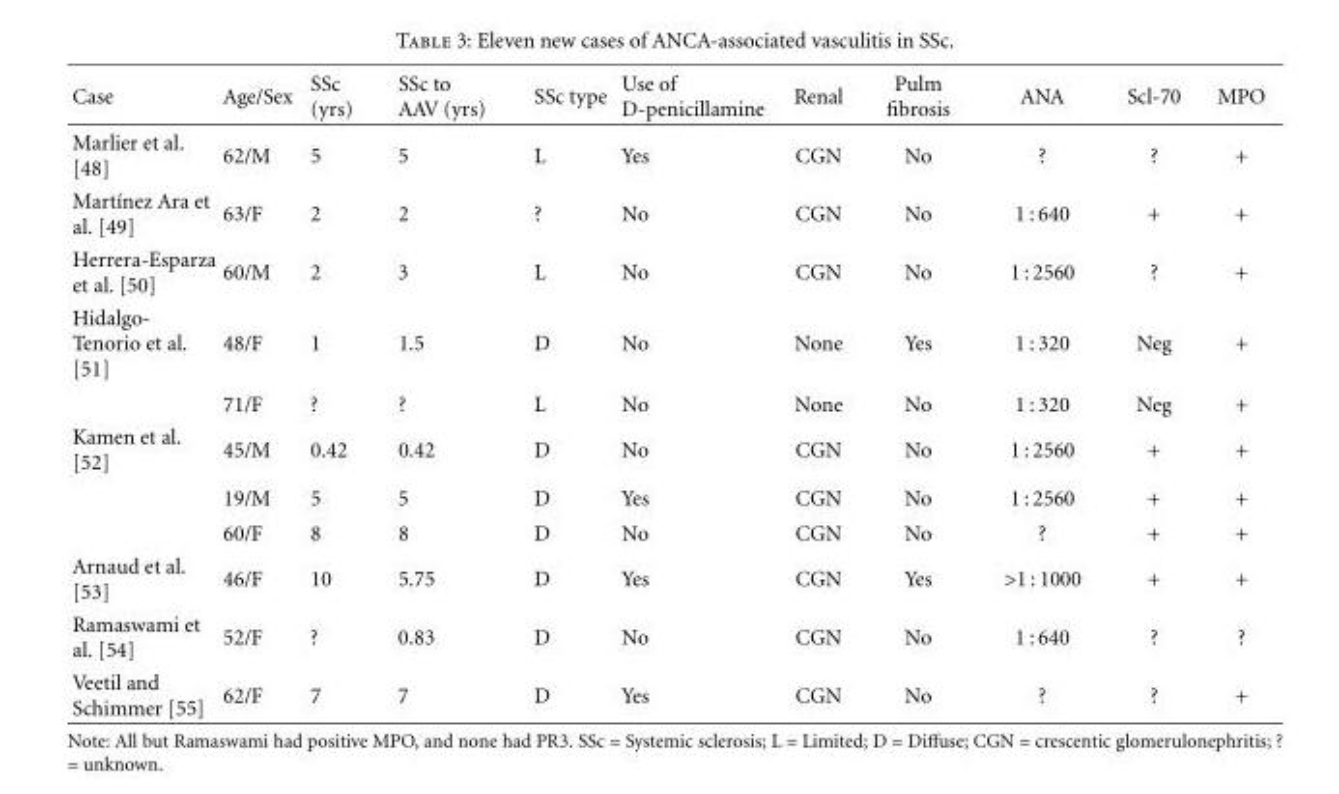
<table><thead><tr><td>Case</td><td>Age/Sex</td><td>SSc (yrs)</td><td>SSc to AAV (yrs)</td><td>SSc type</td><td>Use of D-penicillamine</td><td>Renal</td><td>Pulm fibrosis</td><td>ANA</td><td>Scl-70</td><td>MPO</td></tr></thead><tbody><tr><td>Marlier et al. [48]</td><td>62/M</td><td>5</td><td>5</td><td>L</td><td>Yes</td><td>CGN</td><td>No</td><td>?</td><td>?</td><td>+</td></tr><tr><td>Mart´ınez Ara et al. [49]</td><td>63/F</td><td>2</td><td>2</td><td>?</td><td>No</td><td>CGN</td><td>No</td><td>1 : 640</td><td>+</td><td>+</td></tr><tr><td>Herrera-Esparza et al. [50]</td><td>60/M</td><td>2</td><td>3</td><td>L</td><td>No</td><td>CGN</td><td>No</td><td>1 : 2560</td><td>?</td><td>+</td></tr><tr><td rowspan="2">Hidalgo- Tenorio et al. [51]</td><td>48/F</td><td>1</td><td>1.5</td><td>D</td><td>No</td><td>None</td><td>Yes</td><td>1 : 320</td><td>Neg</td><td>+</td></tr><tr><td>71/F</td><td>?</td><td>?</td><td>L</td><td>No</td><td>None</td><td>No</td><td>1 : 320</td><td>Neg</td><td>+</td></tr><tr><td rowspan="3">Kamen et al. [52]</td><td>45/M</td><td>0.42</td><td>0.42</td><td>D</td><td>No</td><td>CGN</td><td>No</td><td>1 : 2560</td><td>+</td><td>+</td></tr><tr><td>19/M</td><td>5</td><td>5</td><td>D</td><td>Yes</td><td>CGN</td><td>No</td><td>1 : 2560</td><td>+</td><td>+</td></tr><tr><td>60/F</td><td>8</td><td>8</td><td>D</td><td>No</td><td>CGN</td><td>No</td><td>?</td><td>+</td><td>+</td></tr><tr><td>Arnaud et al. [53]</td><td>46/F</td><td>10</td><td>5.75</td><td>D</td><td>Yes</td><td>CGN</td><td>Yes</td><td>&gt;1 : 1000</td><td>+</td><td>+</td></tr><tr><td>Ramaswami et al. [54]</td><td>52/F</td><td>?</td><td>0.83</td><td>D</td><td>No</td><td>CGN</td><td>No</td><td>1 : 640</td><td>?</td><td>?</td></tr><tr><td>Veetil and Schimmer [55]</td><td>62/F</td><td>7</td><td>7</td><td>D</td><td>Yes</td><td>CGN</td><td>No</td><td>?</td><td>?</td><td>+</td></tr></tbody></table>